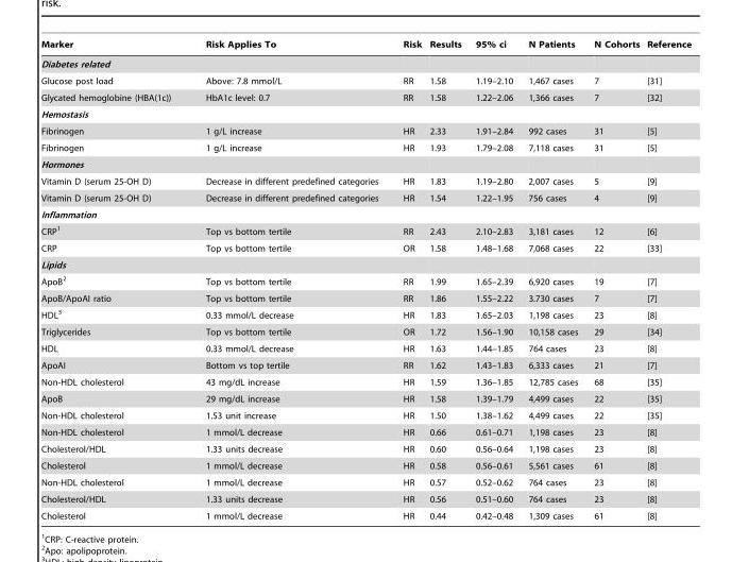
<table><thead><tr><td>Marker</td><td>Risk Applies To</td><td>Risk</td><td>Results</td><td>95% ci</td><td>N Patients</td><td>N Cohorts</td><td>Reference</td></tr></thead><tbody><tr><td colspan="8">Diabetes related</td></tr><tr><td>Glucose post load</td><td>Above: 7.8 mmol/L</td><td>RR</td><td>1.58</td><td>1.19–2.10</td><td>1,467 cases</td><td>7</td><td>[31]</td></tr><tr><td>Glycated hemoglobine (HBA(1c))</td><td>HbA1c level: 0.7</td><td>RR</td><td>1.58</td><td>1.22–2.06</td><td>1,366 cases</td><td>7</td><td>[32]</td></tr><tr><td colspan="8">Hemostasis</td></tr><tr><td>Fibrinogen</td><td>1 g/L increase</td><td>HR</td><td>2.33</td><td>1.91–2.84</td><td>992 cases</td><td>31</td><td>[5]</td></tr><tr><td>Fibrinogen</td><td>1 g/L increase</td><td>HR</td><td>1.93</td><td>1.79–2.08</td><td>7,118 cases</td><td>31</td><td>[5]</td></tr><tr><td colspan="8">Hormones</td></tr><tr><td>Vitamin D (serum 25-OH D)</td><td>Decrease in different predefined categories</td><td>HR</td><td>1.83</td><td>1.19–2.80</td><td>2,007 cases</td><td>5</td><td>[9]</td></tr><tr><td>Vitamin D (serum 25-OH D)</td><td>Decrease in different predefined categories</td><td>HR</td><td>1.54</td><td>1.22–1.95</td><td>756 cases</td><td>4</td><td>[9]</td></tr><tr><td colspan="8">Inflammation</td></tr><tr><td>CRP<sup>1</sup></td><td>Top vs bottom tertile</td><td>RR</td><td>2.43</td><td>2.10–2.83</td><td>3,181 cases</td><td>12</td><td>[6]</td></tr><tr><td>CRP</td><td>Top vs bottom tertile</td><td>OR</td><td>1.58</td><td>1.48–1.68</td><td>7,068 cases</td><td>22</td><td>[33]</td></tr><tr><td colspan="8">Lipids</td></tr><tr><td>ApoB<sup>2</sup></td><td>Top vs bottom tertile</td><td>RR</td><td>1.99</td><td>1.65–2.39</td><td>6,920 cases</td><td>19</td><td>[7]</td></tr><tr><td>ApoB/ApoAI ratio</td><td>Top vs bottom tertile</td><td>RR</td><td>1.86</td><td>1.55–2.22</td><td>3.730 cases</td><td>7</td><td>[7]</td></tr><tr><td>HDL<sup>3</sup></td><td>0.33 mmol/L decrease</td><td>HR</td><td>1.83</td><td>1.65–2.03</td><td>1,198 cases</td><td>23</td><td>[8]</td></tr><tr><td>Triglycerides</td><td>Top vs bottom tertile</td><td>OR</td><td>1.72</td><td>1.56–1.90</td><td>10,158 cases</td><td>29</td><td>[34]</td></tr><tr><td>HDL</td><td>0.33 mmol/L decrease</td><td>HR</td><td>1.63</td><td>1.44–1.85</td><td>764 cases</td><td>23</td><td>[8]</td></tr><tr><td>ApoAI</td><td>Bottom vs top tertile</td><td>RR</td><td>1.62</td><td>1.43–1.83</td><td>6,333 cases</td><td>21</td><td>[7]</td></tr><tr><td>Non-HDL cholesterol</td><td>43 mg/dL increase</td><td>HR</td><td>1.59</td><td>1.36–1.85</td><td>12,785 cases</td><td>68</td><td>[35]</td></tr><tr><td>ApoB</td><td>29 mg/dL increase</td><td>HR</td><td>1.58</td><td>1.39–1.79</td><td>4,499 cases</td><td>22</td><td>[35]</td></tr><tr><td>Non-HDL cholesterol</td><td>1.53 unit increase</td><td>HR</td><td>1.50</td><td>1.38–1.62</td><td>4,499 cases</td><td>22</td><td>[35]</td></tr><tr><td>Non-HDL cholesterol</td><td>1 mmol/L decrease</td><td>HR</td><td>0.66</td><td>0.61–0.71</td><td>1,198 cases</td><td>23</td><td>[8]</td></tr><tr><td>Cholesterol/HDL</td><td>1.33 units decrease</td><td>HR</td><td>0.60</td><td>0.56–0.64</td><td>1,198 cases</td><td>23</td><td>[8]</td></tr><tr><td>Cholesterol</td><td>1 mmol/L decrease</td><td>HR</td><td>0.58</td><td>0.56–0.61</td><td>5,561 cases</td><td>61</td><td>[8]</td></tr><tr><td>Non-HDL cholesterol</td><td>1 mmol/L decrease</td><td>HR</td><td>0.57</td><td>0.52–0.62</td><td>764 cases</td><td>23</td><td>[8]</td></tr><tr><td>Cholesterol/HDL</td><td>1.33 units decrease</td><td>HR</td><td>0.56</td><td>0.51–0.60</td><td>764 cases</td><td>23</td><td>[8]</td></tr><tr><td>Cholesterol</td><td>1 mmol/L decrease</td><td>HR</td><td>0.44</td><td>0.42–0.48</td><td>1,309 cases</td><td>61</td><td>[8]</td></tr></tbody></table>